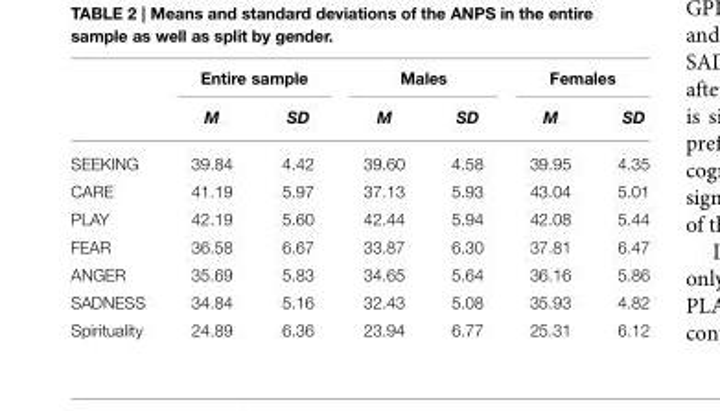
<table><thead><tr><td rowspan="2"></td><td colspan="2">Entire sample</td><td colspan="2">Males</td><td colspan="2">Females</td></tr><tr><td>M</td><td>SD</td><td>M</td><td>SD</td><td>M</td><td>SD</td></tr></thead><tbody><tr><td>SEEKING</td><td>39.84</td><td>4.42</td><td>39.60</td><td>4.58</td><td>39.95</td><td>4.35</td></tr><tr><td>CARE</td><td>41.19</td><td>5.97</td><td>37.13</td><td>5.93</td><td>43.04</td><td>5.01</td></tr><tr><td>PLAY</td><td>42.19</td><td>5.60</td><td>42.44</td><td>5.94</td><td>42.08</td><td>5.44</td></tr><tr><td>FEAR</td><td>36.58</td><td>6.67</td><td>33.87</td><td>6.30</td><td>37.81</td><td>6.47</td></tr><tr><td>ANGER</td><td>35.69</td><td>5.83</td><td>34.65</td><td>5.64</td><td>36.16</td><td>5.86</td></tr><tr><td>SADNESS</td><td>34.84</td><td>5.16</td><td>32.43</td><td>5.08</td><td>35.93</td><td>4.82</td></tr><tr><td>Spirituality</td><td>24.89</td><td>6.36</td><td>23.94</td><td>6.77</td><td>25.31</td><td>6.12</td></tr></tbody></table>